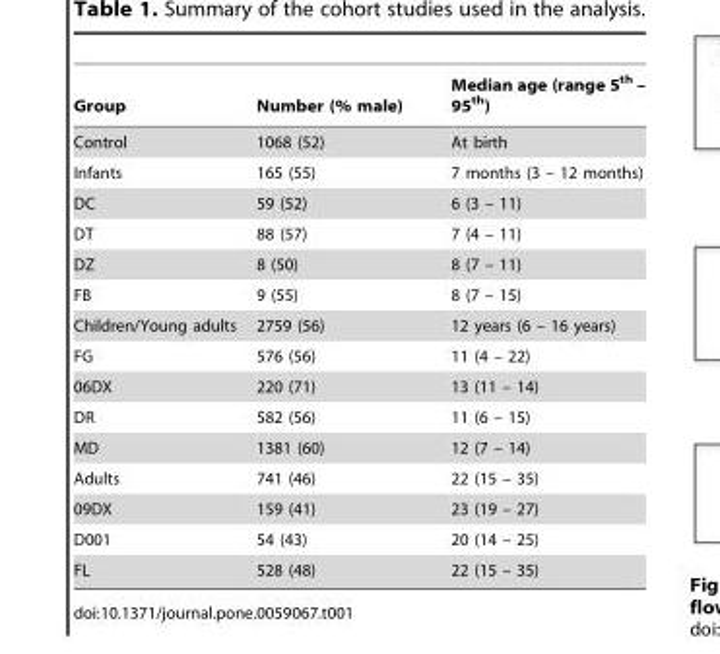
<table><thead><tr><td>Group</td><td>Number (% male)</td><td>Median age (range 5<sup>th</sup> – 95<sup>th</sup>)</td></tr></thead><tbody><tr><td>Control</td><td>1068 (52)</td><td>At birth</td></tr><tr><td>Infants</td><td>165 (55)</td><td>7 months (3 – 12 months)</td></tr><tr><td>DC</td><td>59 (52)</td><td>6 (3 – 11)</td></tr><tr><td>DT</td><td>88 (57)</td><td>7 (4 – 11)</td></tr><tr><td>DZ</td><td>8 (50)</td><td>8 (7 – 11)</td></tr><tr><td>FB</td><td>9 (55)</td><td>8 (7 – 15)</td></tr><tr><td>Children/Young adults</td><td>2759 (56)</td><td>12 years (6 – 16 years)</td></tr><tr><td>FG</td><td>576 (56)</td><td>11 (4 – 22)</td></tr><tr><td>06DX</td><td>220 (71)</td><td>13 (11 – 14)</td></tr><tr><td>DR</td><td>582 (56)</td><td>11 (6 – 15)</td></tr><tr><td>MD</td><td>1381 (60)</td><td>12 (7 – 14)</td></tr><tr><td>Adults</td><td>741 (46)</td><td>22 (15 – 35)</td></tr><tr><td>09DX</td><td>159 (41)</td><td>23 (19 – 27)</td></tr><tr><td>D001</td><td>54 (43)</td><td>20 (14 – 25)</td></tr><tr><td>FL</td><td>528 (48)</td><td>22 (15 – 35)</td></tr></tbody></table>